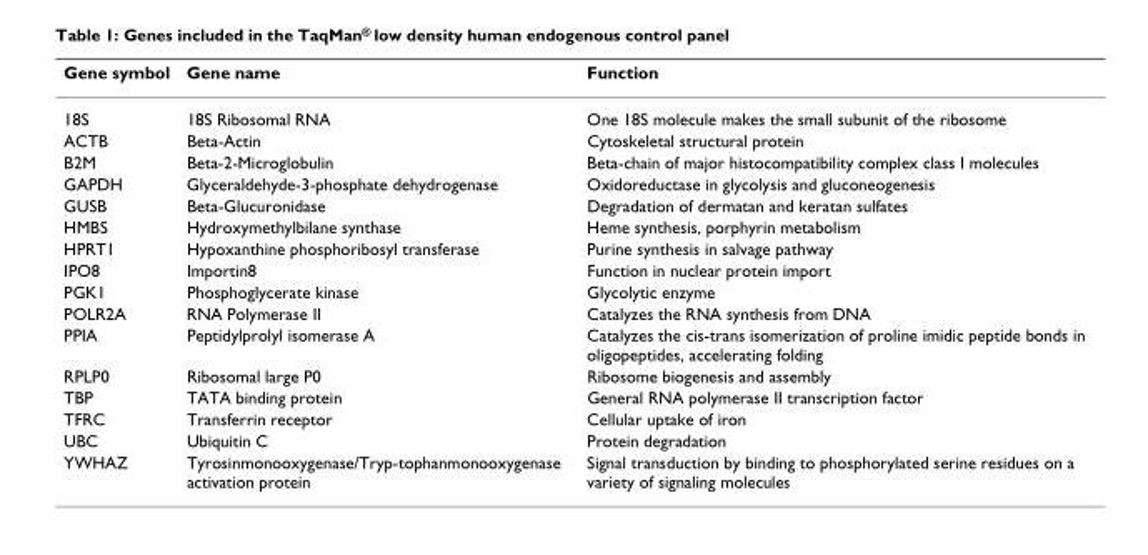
<table><thead><tr><td>Gene symbol</td><td>Gene name</td><td>Function</td></tr></thead><tbody><tr><td>18S</td><td>18S Ribosomal RNA</td><td>One 18S molecule makes the small subunit of the ribosome</td></tr><tr><td>ACTB</td><td>Beta-Actin</td><td>Cytoskeletal structural protein</td></tr><tr><td>B2M</td><td>Beta-2-Microglobulin</td><td>Beta-chain of major histocompatibility complex class I molecules</td></tr><tr><td>GAPDH</td><td>Glyceraldehyde-3-phosphate dehydrogenase</td><td>Oxidoreductase in glycolysis and gluconeogenesis</td></tr><tr><td>GUSB</td><td>Beta-Glucuronidase</td><td>Degradation of dermatan and keratan sulfates</td></tr><tr><td>HMBS</td><td>Hydroxymethylbilane synthase</td><td>Heme synthesis, porphyrin metabolism</td></tr><tr><td>HPRT1</td><td>Hypoxanthine phosphoribosyl transferase</td><td>Purine synthesis in salvage pathway</td></tr><tr><td>IPO8</td><td>Importin8</td><td>Function in nuclear protein import</td></tr><tr><td>PGK1</td><td>Phosphoglycerate kinase</td><td>Glycolytic enzyme</td></tr><tr><td>POLR2A</td><td>RNA Polymerase II</td><td>Catalyzes the RNA synthesis from DNA</td></tr><tr><td>PPIA</td><td>Peptidylprolyl isomerase A</td><td>Catalyzes the cis-trans isomerization of proline imidic peptide bonds in oligopeptides, accelerating folding</td></tr><tr><td>RPLP0</td><td>Ribosomal large P0</td><td>Ribosome biogenesis and assembly</td></tr><tr><td>TBP</td><td>TATA binding protein</td><td>General RNA polymerase II transcription factor</td></tr><tr><td>TFRC</td><td>Transferrin receptor</td><td>Cellular uptake of iron</td></tr><tr><td>UBC</td><td>Ubiquitin C</td><td>Protein degradation</td></tr><tr><td>YWHAZ</td><td>Tyrosinmonooxygenase/Tryp-tophanmonooxygenase activation protein</td><td>Signal transduction by binding to phosphorylated serine residues on a variety of signaling molecules</td></tr></tbody></table>